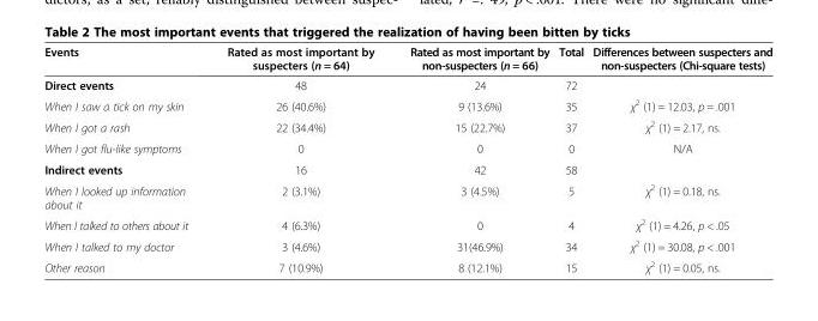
<table><thead><tr><td>Events</td><td>Rated as most important by suspecters (n = 64)</td><td>Rated as most important by non-suspecters (n = 66)</td><td>Total</td><td>Differences between suspecters and non-suspecters (Chi-square tests)</td></tr></thead><tbody><tr><td>Direct events</td><td>48</td><td>24</td><td>72</td><td></td></tr><tr><td>When I saw a tick on my skin</td><td>26 (40.6%)</td><td>9 (13.6%)</td><td>35</td><td>χ<sup>2</sup> (1) = 12.03, p = .001</td></tr><tr><td>When I got a rash</td><td>22 (34.4%)</td><td>15 (22.7%)</td><td>37</td><td>χ<sup>2</sup> (1) = 2.17, ns.</td></tr><tr><td>When I got flu-like symptoms</td><td>0</td><td>0</td><td>0</td><td>N/A</td></tr><tr><td>Indirect events</td><td>16</td><td>42</td><td>58</td><td></td></tr><tr><td>When I looked up information about it</td><td>2 (3.1%)</td><td>3 (4.5%)</td><td>5</td><td>χ<sup>2</sup> (1) = 0.18, ns.</td></tr><tr><td>When I talked to others about it</td><td>4 (6.3%)</td><td>0</td><td>4</td><td>χ<sup>2</sup> (1) = 4.26, p &lt; .05</td></tr><tr><td>When I talked to my doctor</td><td>3 (4.6%)</td><td>31(46.9%)</td><td>34</td><td>χ<sup>2</sup> (1) = 30.08, p &lt; .001</td></tr><tr><td>Other reason</td><td>7 (10.9%)</td><td>8 (12.1%)</td><td>15</td><td>χ<sup>2</sup> (1) = 0.05, ns.</td></tr></tbody></table>